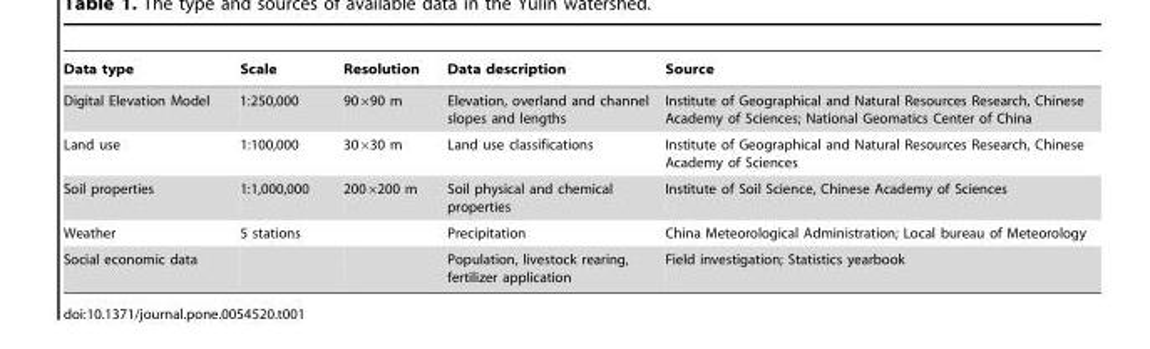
<table><thead><tr><td>Data type</td><td>Scale</td><td>Resolution</td><td>Data description</td><td>Source</td></tr></thead><tbody><tr><td>Digital Elevation Model</td><td>1:250,000</td><td>90×90 m</td><td>Elevation, overland and channel slopes and lengths</td><td>Institute of Geographical and Natural Resources Research, Chinese Academy of Sciences; National Geomatics Center of China</td></tr><tr><td>Land use</td><td>1:100,000</td><td>30×30 m</td><td>Land use classifications</td><td>Institute of Geographical and Natural Resources Research, Chinese Academy of Sciences</td></tr><tr><td>Soil properties</td><td>1:1,000,000</td><td>200×200 m</td><td>Soil physical and chemical properties</td><td>Institute of Soil Science, Chinese Academy of Sciences</td></tr><tr><td>Weather</td><td>5 stations</td><td></td><td>Precipitation</td><td>China Meteorological Administration; Local bureau of Meteorology</td></tr><tr><td>Social economic data</td><td></td><td></td><td>Population, livestock rearing, fertilizer application</td><td>Field investigation; Statistics yearbook</td></tr></tbody></table>